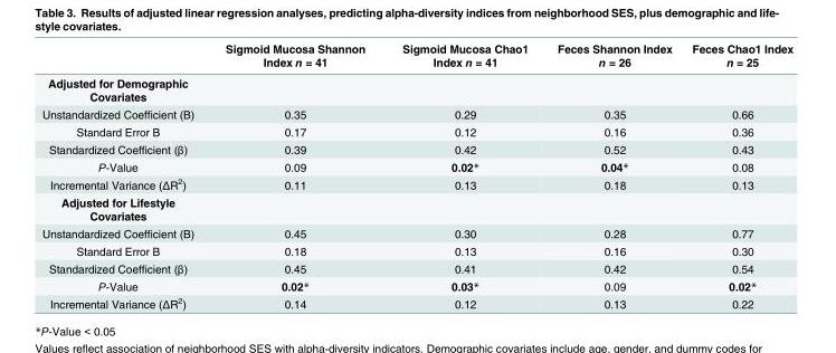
<table><thead><tr><td></td><td>Sigmoid Mucosa Shannon Index n = 41</td><td>Sigmoid Mucosa Chao1 Index n = 41</td><td>Feces Shannon Index n = 26</td><td>Feces Chao1 Index n = 25</td></tr></thead><tbody><tr><td colspan="5">Adjusted for Demographic Covariates</td></tr><tr><td>Unstandardized Coefficient (B)</td><td>0.35</td><td>0.29</td><td>0.35</td><td>0.66</td></tr><tr><td>Standard Error B</td><td>0.17</td><td>0.12</td><td>0.16</td><td>0.36</td></tr><tr><td>Standardized Coefficient (β)</td><td>0.39</td><td>0.42</td><td>0.52</td><td>0.43</td></tr><tr><td>P-Value</td><td>0.09</td><td>0.02*</td><td>0.04*</td><td>0.08</td></tr><tr><td>Incremental Variance (ΔR<sup>2</sup>)</td><td>0.11</td><td>0.13</td><td>0.18</td><td>0.13</td></tr><tr><td colspan="5">Adjusted for Lifestyle Covariates</td></tr><tr><td>Unstandardized Coefficient (B)</td><td>0.45</td><td>0.30</td><td>0.28</td><td>0.77</td></tr><tr><td>Standard Error B</td><td>0.18</td><td>0.13</td><td>0.16</td><td>0.30</td></tr><tr><td>Standardized Coefficient (β)</td><td>0.45</td><td>0.41</td><td>0.42</td><td>0.54</td></tr><tr><td>P-Value</td><td>0.02*</td><td>0.03*</td><td>0.09</td><td>0.02*</td></tr><tr><td>Incremental Variance (ΔR<sup>2</sup>)</td><td>0.14</td><td>0.12</td><td>0.13</td><td>0.22</td></tr></tbody></table>